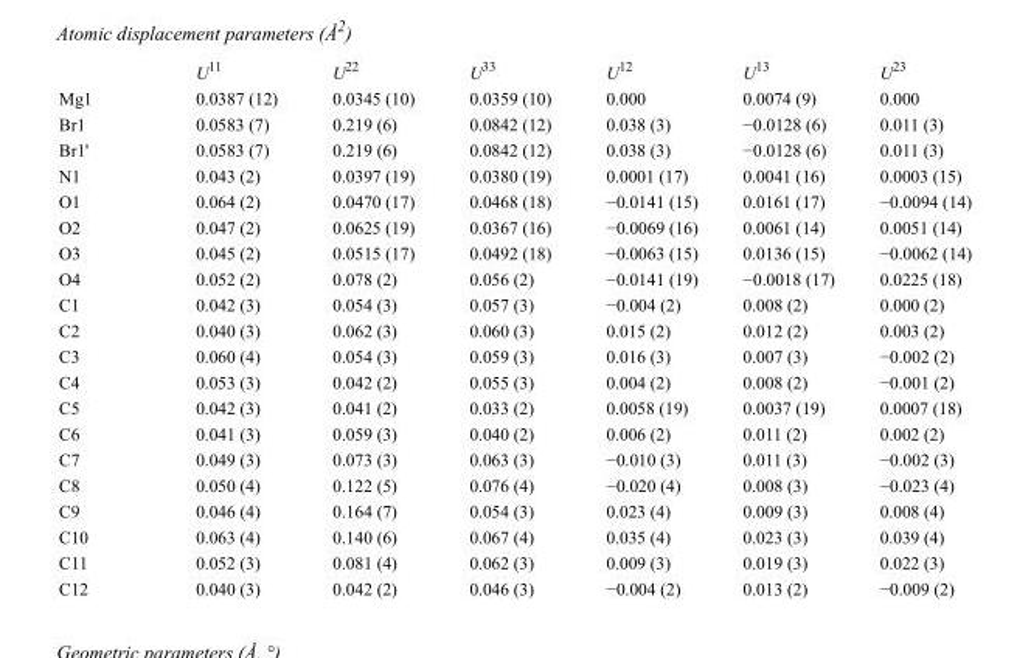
<table><thead><tr><td></td><td>U<sup>11</sup></td><td>U<sup>22</sup></td><td>U<sup>33</sup></td><td>U<sup>12</sup></td><td>U<sup>13</sup></td><td>U<sup>23</sup></td></tr></thead><tbody><tr><td>Mg1</td><td>0.0387 (12)</td><td>0.0345 (10)</td><td>0.0359 (10)</td><td>0.000</td><td>0.0074 (9)</td><td>0.000</td></tr><tr><td>Br1</td><td>0.0583 (7)</td><td>0.219 (6)</td><td>0.0842 (12)</td><td>0.038 (3)</td><td>−0.0128 (6)</td><td>0.011 (3)</td></tr><tr><td>Br1&#x27;</td><td>0.0583 (7)</td><td>0.219 (6)</td><td>0.0842 (12)</td><td>0.038 (3)</td><td>−0.0128 (6)</td><td>0.011 (3)</td></tr><tr><td>N1</td><td>0.043 (2)</td><td>0.0397 (19)</td><td>0.0380 (19)</td><td>0.0001 (17)</td><td>0.0041 (16)</td><td>0.0003 (15)</td></tr><tr><td>O1</td><td>0.064 (2)</td><td>0.0470 (17)</td><td>0.0468 (18)</td><td>−0.0141 (15)</td><td>0.0161 (17)</td><td>−0.0094 (14)</td></tr><tr><td>O2</td><td>0.047 (2)</td><td>0.0625 (19)</td><td>0.0367 (16)</td><td>−0.0069 (16)</td><td>0.0061 (14)</td><td>0.0051 (14)</td></tr><tr><td>O3</td><td>0.045 (2)</td><td>0.0515 (17)</td><td>0.0492 (18)</td><td>−0.0063 (15)</td><td>0.0136 (15)</td><td>−0.0062 (14)</td></tr><tr><td>O4</td><td>0.052 (2)</td><td>0.078 (2)</td><td>0.056 (2)</td><td>−0.0141 (19)</td><td>−0.0018 (17)</td><td>0.0225 (18)</td></tr><tr><td>C1</td><td>0.042 (3)</td><td>0.054 (3)</td><td>0.057 (3)</td><td>−0.004 (2)</td><td>0.008 (2)</td><td>0.000 (2)</td></tr><tr><td>C2</td><td>0.040 (3)</td><td>0.062 (3)</td><td>0.060 (3)</td><td>0.015 (2)</td><td>0.012 (2)</td><td>0.003 (2)</td></tr><tr><td>C3</td><td>0.060 (4)</td><td>0.054 (3)</td><td>0.059 (3)</td><td>0.016 (3)</td><td>0.007 (3)</td><td>−0.002 (2)</td></tr><tr><td>C4</td><td>0.053 (3)</td><td>0.042 (2)</td><td>0.055 (3)</td><td>0.004 (2)</td><td>0.008 (2)</td><td>−0.001 (2)</td></tr><tr><td>C5</td><td>0.042 (3)</td><td>0.041 (2)</td><td>0.033 (2)</td><td>0.0058 (19)</td><td>0.0037 (19)</td><td>0.0007 (18)</td></tr><tr><td>C6</td><td>0.041 (3)</td><td>0.059 (3)</td><td>0.040 (2)</td><td>0.006 (2)</td><td>0.011 (2)</td><td>0.002 (2)</td></tr><tr><td>C7</td><td>0.049 (3)</td><td>0.073 (3)</td><td>0.063 (3)</td><td>−0.010 (3)</td><td>0.011 (3)</td><td>−0.002 (3)</td></tr><tr><td>C8</td><td>0.050 (4)</td><td>0.122 (5)</td><td>0.076 (4)</td><td>−0.020 (4)</td><td>0.008 (3)</td><td>−0.023 (4)</td></tr><tr><td>C9</td><td>0.046 (4)</td><td>0.164 (7)</td><td>0.054 (3)</td><td>0.023 (4)</td><td>0.009 (3)</td><td>0.008 (4)</td></tr><tr><td>C10</td><td>0.063 (4)</td><td>0.140 (6)</td><td>0.067 (4)</td><td>0.035 (4)</td><td>0.023 (3)</td><td>0.039 (4)</td></tr><tr><td>C11</td><td>0.052 (3)</td><td>0.081 (4)</td><td>0.062 (3)</td><td>0.009 (3)</td><td>0.019 (3)</td><td>0.022 (3)</td></tr><tr><td>C12</td><td>0.040 (3)</td><td>0.042 (2)</td><td>0.046 (3)</td><td>−0.004 (2)</td><td>0.013 (2)</td><td>−0.009 (2)</td></tr></tbody></table>